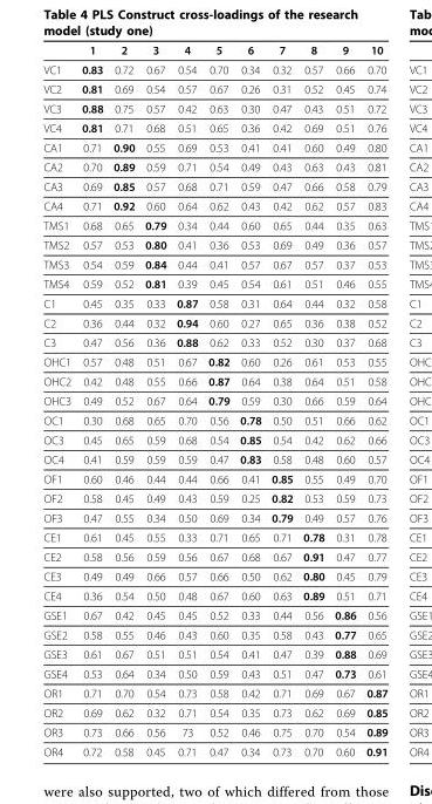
<table><thead><tr><td></td><td>1</td><td>2</td><td>3</td><td>4</td><td>5</td><td>6</td><td>7</td><td>8</td><td>9</td><td>10</td></tr></thead><tbody><tr><td>VC1</td><td>0.83</td><td>0.72</td><td>0.67</td><td>0.54</td><td>0.70</td><td>0.34</td><td>0.32</td><td>0.57</td><td>0.66</td><td>0.70</td></tr><tr><td>VC2</td><td>0.81</td><td>0.69</td><td>0.54</td><td>0.57</td><td>0.67</td><td>0.26</td><td>0.31</td><td>0.52</td><td>0.45</td><td>0.74</td></tr><tr><td>VC3</td><td>0.88</td><td>0.75</td><td>0.57</td><td>0.42</td><td>0.63</td><td>0.30</td><td>0.47</td><td>0.43</td><td>0.51</td><td>0.72</td></tr><tr><td>VC4</td><td>0.81</td><td>0.71</td><td>0.68</td><td>0.51</td><td>0.65</td><td>0.36</td><td>0.42</td><td>0.69</td><td>0.51</td><td>0.76</td></tr><tr><td>CA1</td><td>0.71</td><td>0.90</td><td>0.55</td><td>0.69</td><td>0.53</td><td>0.41</td><td>0.41</td><td>0.60</td><td>0.49</td><td>0.80</td></tr><tr><td>CA2</td><td>0.70</td><td>0.89</td><td>0.59</td><td>0.71</td><td>0.54</td><td>0.49</td><td>0.43</td><td>0.63</td><td>0.43</td><td>0.81</td></tr><tr><td>CA3</td><td>0.69</td><td>0.85</td><td>0.57</td><td>0.68</td><td>0.71</td><td>0.59</td><td>0.47</td><td>0.66</td><td>0.58</td><td>0.79</td></tr><tr><td>CA4</td><td>0.71</td><td>0.92</td><td>0.60</td><td>0.64</td><td>0.62</td><td>0.43</td><td>0.42</td><td>0.62</td><td>0.57</td><td>0.83</td></tr><tr><td>TMS1</td><td>0.68</td><td>0.65</td><td>0.79</td><td>0.34</td><td>0.44</td><td>0.60</td><td>0.65</td><td>0.44</td><td>0.35</td><td>0.63</td></tr><tr><td>TMS2</td><td>0.57</td><td>0.53</td><td>0.80</td><td>0.41</td><td>0.36</td><td>0.53</td><td>0.69</td><td>0.49</td><td>0.36</td><td>0.57</td></tr><tr><td>TMS3</td><td>0.54</td><td>0.59</td><td>0.84</td><td>0.44</td><td>0.41</td><td>0.57</td><td>0.67</td><td>0.57</td><td>0.37</td><td>0.53</td></tr><tr><td>TMS4</td><td>0.59</td><td>0.52</td><td>0.81</td><td>0.39</td><td>0.45</td><td>0.54</td><td>0.61</td><td>0.51</td><td>0.46</td><td>0.55</td></tr><tr><td>C1</td><td>0.45</td><td>0.35</td><td>0.33</td><td>0.87</td><td>0.58</td><td>0.31</td><td>0.64</td><td>0.44</td><td>0.32</td><td>0.58</td></tr><tr><td>C2</td><td>0.36</td><td>0.44</td><td>0.32</td><td>0.94</td><td>0.60</td><td>0.27</td><td>0.65</td><td>0.36</td><td>0.38</td><td>0.52</td></tr><tr><td>C3</td><td>0.47</td><td>0.56</td><td>0.36</td><td>0.88</td><td>0.62</td><td>0.33</td><td>0.52</td><td>0.30</td><td>0.37</td><td>0.68</td></tr><tr><td>OHC1</td><td>0.57</td><td>0.48</td><td>0.51</td><td>0.67</td><td>0.82</td><td>0.60</td><td>0.26</td><td>0.61</td><td>0.53</td><td>0.55</td></tr><tr><td>OHC2</td><td>0.42</td><td>0.48</td><td>0.55</td><td>0.66</td><td>0.87</td><td>0.64</td><td>0.38</td><td>0.64</td><td>0.51</td><td>0.58</td></tr><tr><td>OHC3</td><td>0.49</td><td>0.52</td><td>0.67</td><td>0.64</td><td>0.79</td><td>0.59</td><td>0.30</td><td>0.66</td><td>0.59</td><td>0.64</td></tr><tr><td>OC1</td><td>0.30</td><td>0.68</td><td>0.65</td><td>0.70</td><td>0.56</td><td>0.78</td><td>0.50</td><td>0.51</td><td>0.66</td><td>0.62</td></tr><tr><td>OC3</td><td>0.45</td><td>0.65</td><td>0.59</td><td>0.68</td><td>0.54</td><td>0.85</td><td>0.54</td><td>0.42</td><td>0.62</td><td>0.66</td></tr><tr><td>OC4</td><td>0.41</td><td>0.59</td><td>0.59</td><td>0.59</td><td>0.47</td><td>0.83</td><td>0.58</td><td>0.48</td><td>0.60</td><td>0.57</td></tr><tr><td>OF1</td><td>0.60</td><td>0.46</td><td>0.44</td><td>0.44</td><td>0.66</td><td>0.41</td><td>0.85</td><td>0.55</td><td>0.49</td><td>0.70</td></tr><tr><td>OF2</td><td>0.58</td><td>0.45</td><td>0.49</td><td>0.43</td><td>0.59</td><td>0.25</td><td>0.82</td><td>0.53</td><td>0.59</td><td>0.73</td></tr><tr><td>OF3</td><td>0.47</td><td>0.55</td><td>0.34</td><td>0.50</td><td>0.69</td><td>0.34</td><td>0.79</td><td>0.49</td><td>0.57</td><td>0.76</td></tr><tr><td>CE1</td><td>0.61</td><td>0.45</td><td>0.55</td><td>0.33</td><td>0.71</td><td>0.65</td><td>0.71</td><td>0.78</td><td>0.31</td><td>0.78</td></tr><tr><td>CE2</td><td>0.58</td><td>0.56</td><td>0.59</td><td>0.56</td><td>0.67</td><td>0.68</td><td>0.67</td><td>0.91</td><td>0.47</td><td>0.77</td></tr><tr><td>CE3</td><td>0.49</td><td>0.49</td><td>0.66</td><td>0.57</td><td>0.66</td><td>0.50</td><td>0.62</td><td>0.80</td><td>0.45</td><td>0.79</td></tr><tr><td>CE4</td><td>0.36</td><td>0.54</td><td>0.50</td><td>0.48</td><td>0.67</td><td>0.60</td><td>0.63</td><td>0.89</td><td>0.51</td><td>0.71</td></tr><tr><td>GSE1</td><td>0.67</td><td>0.42</td><td>0.45</td><td>0.45</td><td>0.52</td><td>0.33</td><td>0.44</td><td>0.56</td><td>0.86</td><td>0.56</td></tr><tr><td>GSE2</td><td>0.58</td><td>0.55</td><td>0.46</td><td>0.43</td><td>0.60</td><td>0.35</td><td>0.58</td><td>0.43</td><td>0.77</td><td>0.65</td></tr><tr><td>GSE3</td><td>0.61</td><td>0.67</td><td>0.51</td><td>0.51</td><td>0.54</td><td>0.41</td><td>0.47</td><td>0.39</td><td>0.88</td><td>0.69</td></tr><tr><td>GSE4</td><td>0.53</td><td>0.64</td><td>0.34</td><td>0.50</td><td>0.59</td><td>0.43</td><td>0.51</td><td>0.47</td><td>0.73</td><td>0.61</td></tr><tr><td>OR1</td><td>0.71</td><td>0.70</td><td>0.54</td><td>0.73</td><td>0.58</td><td>0.42</td><td>0.71</td><td>0.69</td><td>0.67</td><td>0.87</td></tr><tr><td>OR2</td><td>0.69</td><td>0.62</td><td>0.32</td><td>0.71</td><td>0.54</td><td>0.35</td><td>0.73</td><td>0.62</td><td>0.69</td><td>0.85</td></tr><tr><td>OR3</td><td>0.73</td><td>0.66</td><td>0.56</td><td>73</td><td>0.52</td><td>0.46</td><td>0.75</td><td>0.70</td><td>0.54</td><td>0.89</td></tr><tr><td>OR4</td><td>0.72</td><td>0.58</td><td>0.45</td><td>0.71</td><td>0.47</td><td>0.34</td><td>0.73</td><td>0.70</td><td>0.60</td><td>0.91</td></tr></tbody></table>